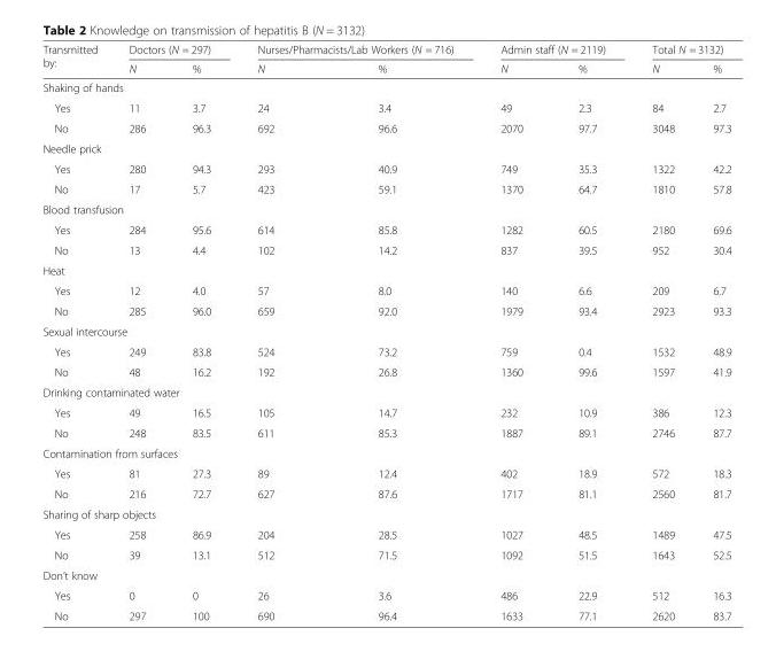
<table><thead><tr><td rowspan="2">Transmitted by:</td><td colspan="2">Doctors (N = 297)</td><td colspan="2">Nurses/Pharmacists/Lab Workers (N = 716)</td><td colspan="2">Admin staff (N = 2119)</td><td colspan="2">Total N = 3132)</td></tr><tr><td>N</td><td>%</td><td>N</td><td>%</td><td>N</td><td>%</td><td>N</td><td>%</td></tr></thead><tbody><tr><td colspan="9">Shaking of hands</td></tr><tr><td>Yes</td><td>11</td><td>3.7</td><td>24</td><td>3.4</td><td>49</td><td>2.3</td><td>84</td><td>2.7</td></tr><tr><td>No</td><td>286</td><td>96.3</td><td>692</td><td>96.6</td><td>2070</td><td>97.7</td><td>3048</td><td>97.3</td></tr><tr><td colspan="9">Needle prick</td></tr><tr><td>Yes</td><td>280</td><td>94.3</td><td>293</td><td>40.9</td><td>749</td><td>35.3</td><td>1322</td><td>42.2</td></tr><tr><td>No</td><td>17</td><td>5.7</td><td>423</td><td>59.1</td><td>1370</td><td>64.7</td><td>1810</td><td>57.8</td></tr><tr><td colspan="9">Blood transfusion</td></tr><tr><td>Yes</td><td>284</td><td>95.6</td><td>614</td><td>85.8</td><td>1282</td><td>60.5</td><td>2180</td><td>69.6</td></tr><tr><td>No</td><td>13</td><td>4.4</td><td>102</td><td>14.2</td><td>837</td><td>39.5</td><td>952</td><td>30.4</td></tr><tr><td colspan="9">Heat</td></tr><tr><td>Yes</td><td>12</td><td>4.0</td><td>57</td><td>8.0</td><td>140</td><td>6.6</td><td>209</td><td>6.7</td></tr><tr><td>No</td><td>285</td><td>96.0</td><td>659</td><td>92.0</td><td>1979</td><td>93.4</td><td>2923</td><td>93.3</td></tr><tr><td colspan="9">Sexual intercourse</td></tr><tr><td>Yes</td><td>249</td><td>83.8</td><td>524</td><td>73.2</td><td>759</td><td>0.4</td><td>1532</td><td>48.9</td></tr><tr><td>No</td><td>48</td><td>16.2</td><td>192</td><td>26.8</td><td>1360</td><td>99.6</td><td>1597</td><td>41.9</td></tr><tr><td colspan="9">Drinking contaminated water</td></tr><tr><td>Yes</td><td>49</td><td>16.5</td><td>105</td><td>14.7</td><td>232</td><td>10.9</td><td>386</td><td>12.3</td></tr><tr><td>No</td><td>248</td><td>83.5</td><td>611</td><td>85.3</td><td>1887</td><td>89.1</td><td>2746</td><td>87.7</td></tr><tr><td colspan="9">Contamination from surfaces</td></tr><tr><td>Yes</td><td>81</td><td>27.3</td><td>89</td><td>12.4</td><td>402</td><td>18.9</td><td>572</td><td>18.3</td></tr><tr><td>No</td><td>216</td><td>72.7</td><td>627</td><td>87.6</td><td>1717</td><td>81.1</td><td>2560</td><td>81.7</td></tr><tr><td colspan="9">Sharing of sharp objects</td></tr><tr><td>Yes</td><td>258</td><td>86.9</td><td>204</td><td>28.5</td><td>1027</td><td>48.5</td><td>1489</td><td>47.5</td></tr><tr><td>No</td><td>39</td><td>13.1</td><td>512</td><td>71.5</td><td>1092</td><td>51.5</td><td>1643</td><td>52.5</td></tr><tr><td colspan="9">Don’t know</td></tr><tr><td>Yes</td><td>0</td><td>0</td><td>26</td><td>3.6</td><td>486</td><td>22.9</td><td>512</td><td>16.3</td></tr><tr><td>No</td><td>297</td><td>100</td><td>690</td><td>96.4</td><td>1633</td><td>77.1</td><td>2620</td><td>83.7</td></tr></tbody></table>